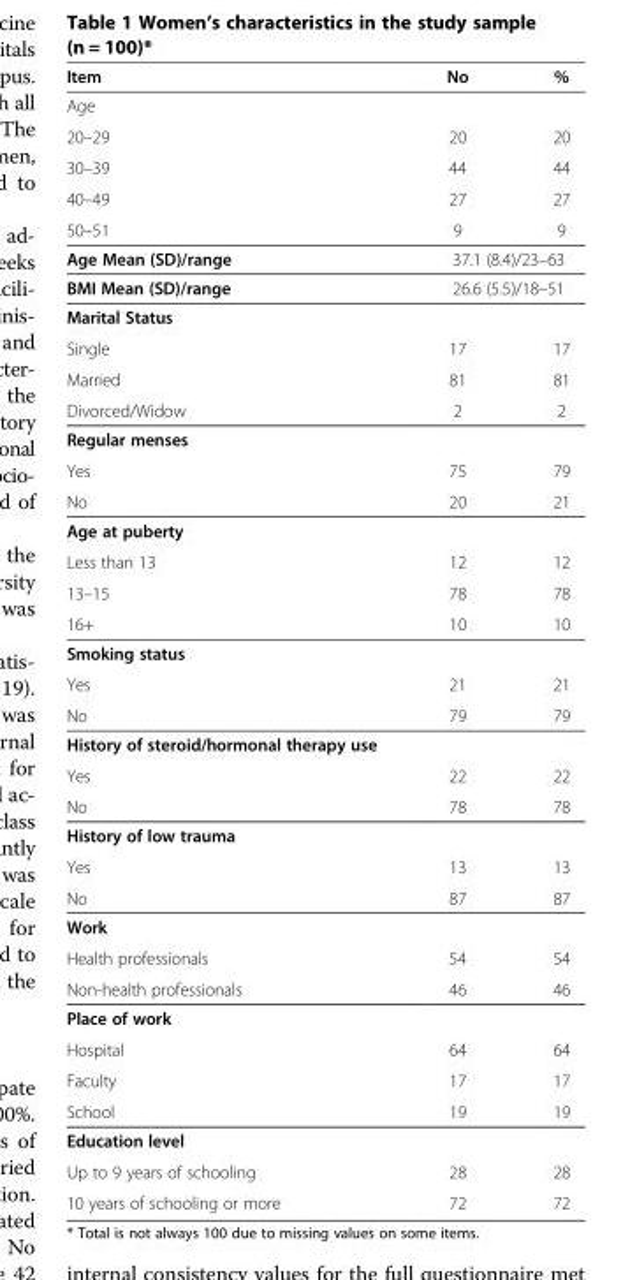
<table><thead><tr><td>Item</td><td>No</td><td>%</td></tr></thead><tbody><tr><td colspan="3">Age</td></tr><tr><td>20–29</td><td>20</td><td>20</td></tr><tr><td>30–39</td><td>44</td><td>44</td></tr><tr><td>40–49</td><td>27</td><td>27</td></tr><tr><td>50–51</td><td>9</td><td>9</td></tr><tr><td>Age Mean (SD)/range</td><td colspan="2">37.1 (8.4)/23–63</td></tr><tr><td>BMI Mean (SD)/range</td><td colspan="2">26.6 (5.5)/18–51</td></tr><tr><td colspan="3">Marital Status</td></tr><tr><td>Single</td><td>17</td><td>17</td></tr><tr><td>Married</td><td>81</td><td>81</td></tr><tr><td>Divorced/Widow</td><td>2</td><td>2</td></tr><tr><td colspan="3">Regular menses</td></tr><tr><td>Yes</td><td>75</td><td>79</td></tr><tr><td>No</td><td>20</td><td>21</td></tr><tr><td colspan="3">Age at puberty</td></tr><tr><td>Less than 13</td><td>12</td><td>12</td></tr><tr><td>13–15</td><td>78</td><td>78</td></tr><tr><td>16+</td><td>10</td><td>10</td></tr><tr><td colspan="3">Smoking status</td></tr><tr><td>Yes</td><td>21</td><td>21</td></tr><tr><td>No</td><td>79</td><td>79</td></tr><tr><td colspan="3">History of steroid/hormonal therapy use</td></tr><tr><td>Yes</td><td>22</td><td>22</td></tr><tr><td>No</td><td>78</td><td>78</td></tr><tr><td colspan="3">History of low trauma</td></tr><tr><td>Yes</td><td>13</td><td>13</td></tr><tr><td>No</td><td>87</td><td>87</td></tr><tr><td colspan="3">Work</td></tr><tr><td>Health professionals</td><td>54</td><td>54</td></tr><tr><td>Non-health professionals</td><td>46</td><td>46</td></tr><tr><td colspan="3">Place of work</td></tr><tr><td>Hospital</td><td>64</td><td>64</td></tr><tr><td>Faculty</td><td>17</td><td>17</td></tr><tr><td>School</td><td>19</td><td>19</td></tr><tr><td colspan="3">Education level</td></tr><tr><td>Up to 9 years of schooling</td><td>28</td><td>28</td></tr><tr><td>10 years of schooling or more</td><td>72</td><td>72</td></tr></tbody></table>